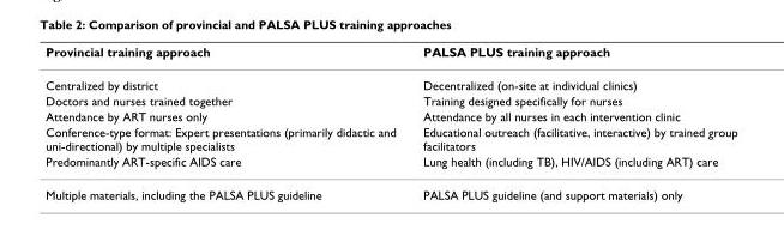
<table><thead><tr><td>Provincial training approach</td><td>PALSA PLUS training approach</td></tr></thead><tbody><tr><td>Centralized by district</td><td>Decentralized (on-site at individual clinics)</td></tr><tr><td>Doctors and nurses trained together</td><td>Training designed specifically for nurses</td></tr><tr><td>Attendance by ART nurses only</td><td>Attendance by all nurses in each intervention clinic</td></tr><tr><td>Conference-type format: Expert presentations (primarily didactic and uni-directional) by multiple specialists</td><td>Educational outreach (facilitative, interactive) by trained group facilitators</td></tr><tr><td>Predominantly ART-specific AIDS care</td><td>Lung health (including TB), HIV/AIDS (including ART) care</td></tr><tr><td>Multiple materials, including the PALSA PLUS guideline</td><td>PALSA PLUS guideline (and support materials) only</td></tr></tbody></table>